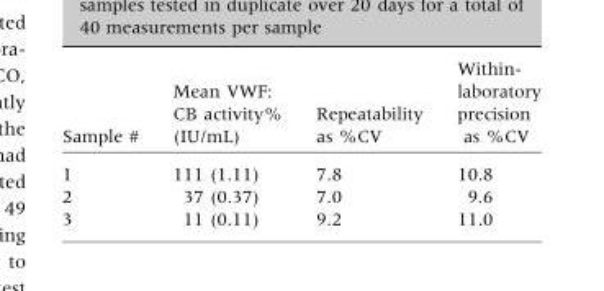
<table><thead><tr><td>Sample #</td><td>Mean VWF: CB activity% (IU/mL)</td><td>Repeatability as %CV</td><td>Within- laboratory precision as %CV</td></tr></thead><tbody><tr><td>1</td><td>111 (1.11)</td><td>7.8</td><td>10.8</td></tr><tr><td>2</td><td>37 (0.37)</td><td>7.0</td><td>9.6</td></tr><tr><td>3</td><td>11 (0.11)</td><td>9.2</td><td>11.0</td></tr></tbody></table>